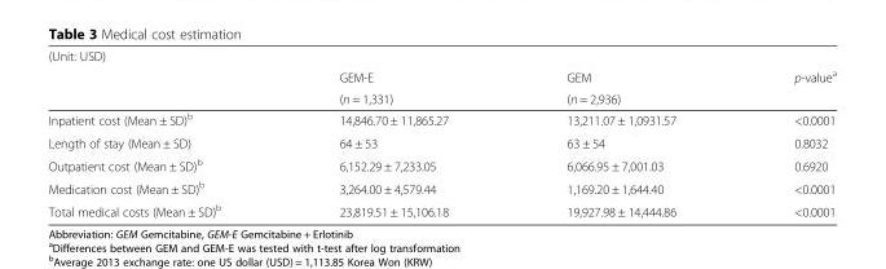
<table><thead><tr><td rowspan="3">(Unit: USD)</td><td rowspan="3">GEM-E (n = 1,331)</td><td rowspan="3">GEM (n = 2,936)</td><td rowspan="3">p-value<sup>a</sup></td></tr><tr></tr><tr></tr></thead><tbody><tr><td>Inpatient cost (Mean ± SD)<sup>b</sup></td><td>14,846.70 ± 11,865.27</td><td>13,211.07 ± 1,0931.57</td><td>&lt;0.0001</td></tr><tr><td>Length of stay (Mean ± SD)</td><td>64 ± 53</td><td>63 ± 54</td><td>0.8032</td></tr><tr><td>Outpatient cost (Mean ± SD)<sup>b</sup></td><td>6,152.29 ± 7,233.05</td><td>6,066.95 ± 7,001.03</td><td>0.6920</td></tr><tr><td>Medication cost (Mean ± SD)<sup>b</sup></td><td>3,264.00 ± 4,579.44</td><td>1,169.20 ± 1,644.40</td><td>&lt;0.0001</td></tr><tr><td>Total medical costs (Mean ± SD)<sup>b</sup></td><td>23,819.51 ± 15,106.18</td><td>19,927.98 ± 14,444.86</td><td>&lt;0.0001</td></tr></tbody></table>